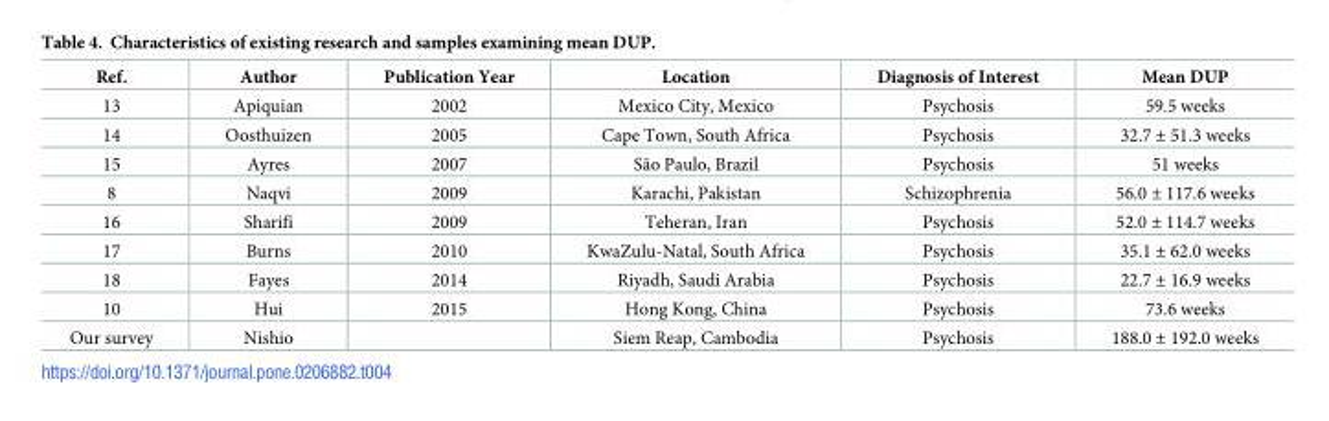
<table><thead><tr><td>Ref.</td><td>Author</td><td>Publication Year</td><td>Location</td><td>Diagnosis of Interest</td><td>Mean DUP</td></tr></thead><tbody><tr><td>13</td><td>Apiquian</td><td>2002</td><td>Mexico City, Mexico</td><td>Psychosis</td><td>59.5 weeks</td></tr><tr><td>14</td><td>Oosthuizen</td><td>2005</td><td>Cape Town, South Africa</td><td>Psychosis</td><td>32.7 ± 51.3 weeks</td></tr><tr><td>15</td><td>Ayres</td><td>2007</td><td>São Paulo, Brazil</td><td>Psychosis</td><td>51 weeks</td></tr><tr><td>8</td><td>Naqvi</td><td>2009</td><td>Karachi, Pakistan</td><td>Schizophrenia</td><td>56.0 ± 117.6 weeks</td></tr><tr><td>16</td><td>Sharifi</td><td>2009</td><td>Teheran, Iran</td><td>Psychosis</td><td>52.0 ± 114.7 weeks</td></tr><tr><td>17</td><td>Burns</td><td>2010</td><td>KwaZulu-Natal, South Africa</td><td>Psychosis</td><td>35.1 ± 62.0 weeks</td></tr><tr><td>18</td><td>Fayes</td><td>2014</td><td>Riyadh, Saudi Arabia</td><td>Psychosis</td><td>22.7 ± 16.9 weeks</td></tr><tr><td>10</td><td>Hui</td><td>2015</td><td>Hong Kong, China</td><td>Psychosis</td><td>73.6 weeks</td></tr><tr><td>Our survey</td><td>Nishio</td><td></td><td>Siem Reap, Cambodia</td><td>Psychosis</td><td>188.0 ± 192.0 weeks</td></tr></tbody></table>